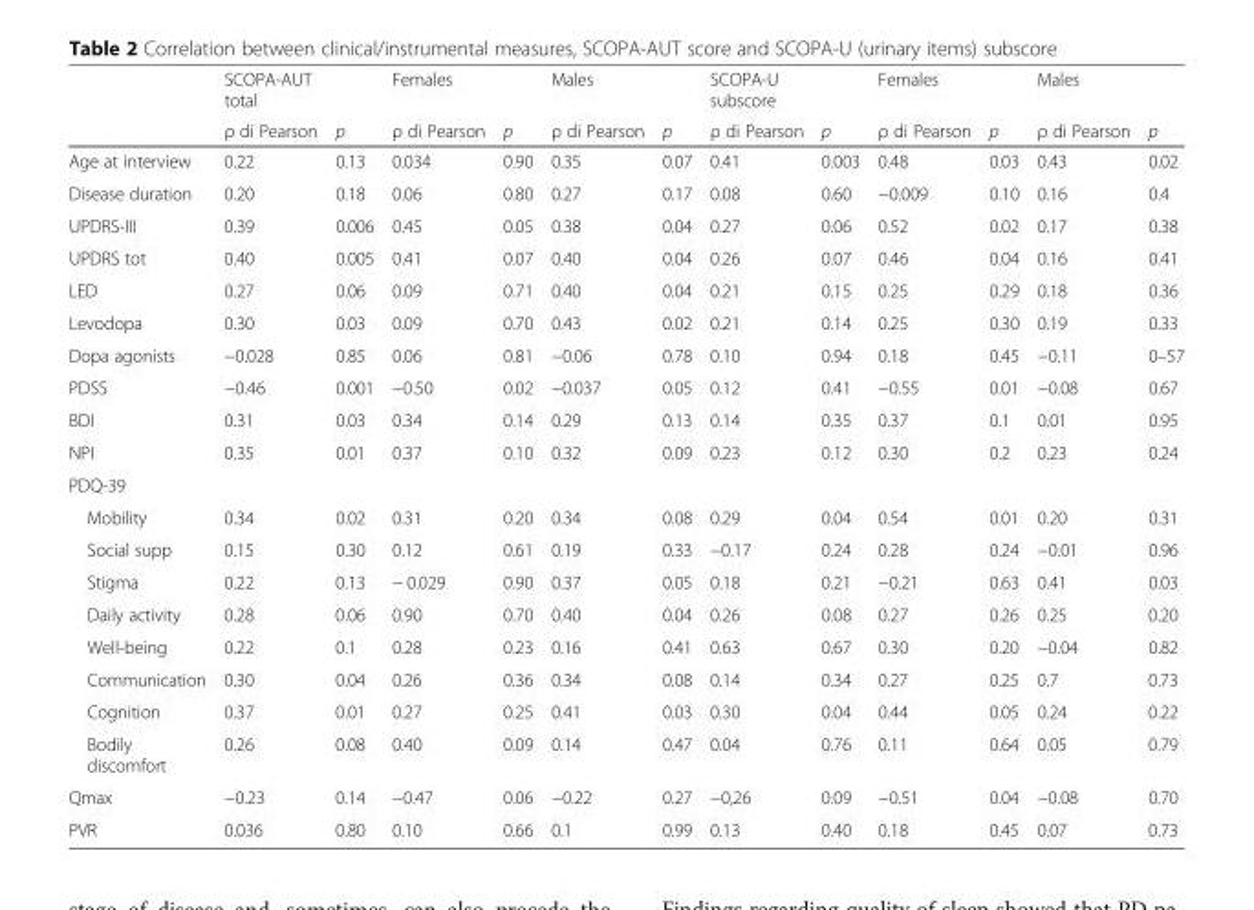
<table><thead><tr><td rowspan="2"></td><td rowspan="2">SCOPA-AUT total ρ di Pearson</td><td rowspan="2">p</td><td rowspan="2">Females ρ di Pearson</td><td rowspan="2">p</td><td rowspan="2">Males ρ di Pearson</td><td rowspan="2">p</td><td rowspan="2">SCOPA-U subscore ρ di Pearson</td><td rowspan="2">p</td><td rowspan="2">Females ρ di Pearson</td><td rowspan="2">p</td><td rowspan="2">Males ρ di Pearson</td><td rowspan="2">p</td></tr><tr></tr></thead><tbody><tr><td>Age at interview</td><td>0.22</td><td>0.13</td><td>0.034</td><td>0.90</td><td>0.35</td><td>0.07</td><td>0.41</td><td>0.003</td><td>0.48</td><td>0.03</td><td>0.43</td><td>0.02</td></tr><tr><td>Disease duration</td><td>0.20</td><td>0.18</td><td>0.06</td><td>0.80</td><td>0.27</td><td>0.17</td><td>0.08</td><td>0.60</td><td>−0.009</td><td>0.10</td><td>0.16</td><td>0.4</td></tr><tr><td>UPDRS-III</td><td>0.39</td><td>0.006</td><td>0.45</td><td>0.05</td><td>0.38</td><td>0.04</td><td>0.27</td><td>0.06</td><td>0.52</td><td>0.02</td><td>0.17</td><td>0.38</td></tr><tr><td>UPDRS tot</td><td>0.40</td><td>0.005</td><td>0.41</td><td>0.07</td><td>0.40</td><td>0.04</td><td>0.26</td><td>0.07</td><td>0.46</td><td>0.04</td><td>0.16</td><td>0.41</td></tr><tr><td>LED</td><td>0.27</td><td>0.06</td><td>0.09</td><td>0.71</td><td>0.40</td><td>0.04</td><td>0.21</td><td>0.15</td><td>0.25</td><td>0.29</td><td>0.18</td><td>0.36</td></tr><tr><td>Levodopa</td><td>0.30</td><td>0.03</td><td>0.09</td><td>0.70</td><td>0.43</td><td>0.02</td><td>0.21</td><td>0.14</td><td>0.25</td><td>0.30</td><td>0.19</td><td>0.33</td></tr><tr><td>Dopa agonists</td><td>−0.028</td><td>0.85</td><td>0.06</td><td>0.81</td><td>−0.06</td><td>0.78</td><td>0.10</td><td>0.94</td><td>0.18</td><td>0.45</td><td>−0.11</td><td>0–57</td></tr><tr><td>PDSS</td><td>−0.46</td><td>0.001</td><td>−0.50</td><td>0.02</td><td>−0.037</td><td>0.05</td><td>0.12</td><td>0.41</td><td>−0.55</td><td>0.01</td><td>−0.08</td><td>0.67</td></tr><tr><td>BDI</td><td>0.31</td><td>0.03</td><td>0.34</td><td>0.14</td><td>0.29</td><td>0.13</td><td>0.14</td><td>0.35</td><td>0.37</td><td>0.1</td><td>0.01</td><td>0.95</td></tr><tr><td>NPI</td><td>0.35</td><td>0.01</td><td>0.37</td><td>0.10</td><td>0.32</td><td>0.09</td><td>0.23</td><td>0.12</td><td>0.30</td><td>0.2</td><td>0.23</td><td>0.24</td></tr><tr><td colspan="13">PDQ-39</td></tr><tr><td>Mobility</td><td>0.34</td><td>0.02</td><td>0.31</td><td>0.20</td><td>0.34</td><td>0.08</td><td>0.29</td><td>0.04</td><td>0.54</td><td>0.01</td><td>0.20</td><td>0.31</td></tr><tr><td>Social supp</td><td>0.15</td><td>0.30</td><td>0.12</td><td>0.61</td><td>0.19</td><td>0.33</td><td>−0.17</td><td>0.24</td><td>0.28</td><td>0.24</td><td>−0.01</td><td>0.96</td></tr><tr><td>Stigma</td><td>0.22</td><td>0.13</td><td>− 0.029</td><td>0.90</td><td>0.37</td><td>0.05</td><td>0.18</td><td>0.21</td><td>−0.21</td><td>0.63</td><td>0.41</td><td>0.03</td></tr><tr><td>Daily activity</td><td>0.28</td><td>0.06</td><td>0.90</td><td>0.70</td><td>0.40</td><td>0.04</td><td>0.26</td><td>0.08</td><td>0.27</td><td>0.26</td><td>0.25</td><td>0.20</td></tr><tr><td>Well-being</td><td>0.22</td><td>0.1</td><td>0.28</td><td>0.23</td><td>0.16</td><td>0.41</td><td>0.63</td><td>0.67</td><td>0.30</td><td>0.20</td><td>−0.04</td><td>0.82</td></tr><tr><td>Communication</td><td>0.30</td><td>0.04</td><td>0.26</td><td>0.36</td><td>0.34</td><td>0.08</td><td>0.14</td><td>0.34</td><td>0.27</td><td>0.25</td><td>0.7</td><td>0.73</td></tr><tr><td>Cognition</td><td>0.37</td><td>0.01</td><td>0.27</td><td>0.25</td><td>0.41</td><td>0.03</td><td>0.30</td><td>0.04</td><td>0.44</td><td>0.05</td><td>0.24</td><td>0.22</td></tr><tr><td>Bodily discomfort</td><td>0.26</td><td>0.08</td><td>0.40</td><td>0.09</td><td>0.14</td><td>0.47</td><td>0.04</td><td>0.76</td><td>0.11</td><td>0.64</td><td>0.05</td><td>0.79</td></tr><tr><td>Qmax</td><td>−0.23</td><td>0.14</td><td>−0.47</td><td>0.06</td><td>−0.22</td><td>0.27</td><td>−0,26</td><td>0.09</td><td>−0.51</td><td>0.04</td><td>−0.08</td><td>0.70</td></tr><tr><td>PVR</td><td>0.036</td><td>0.80</td><td>0.10</td><td>0.66</td><td>0.1</td><td>0.99</td><td>0.13</td><td>0.40</td><td>0.18</td><td>0.45</td><td>0.07</td><td>0.73</td></tr></tbody></table>